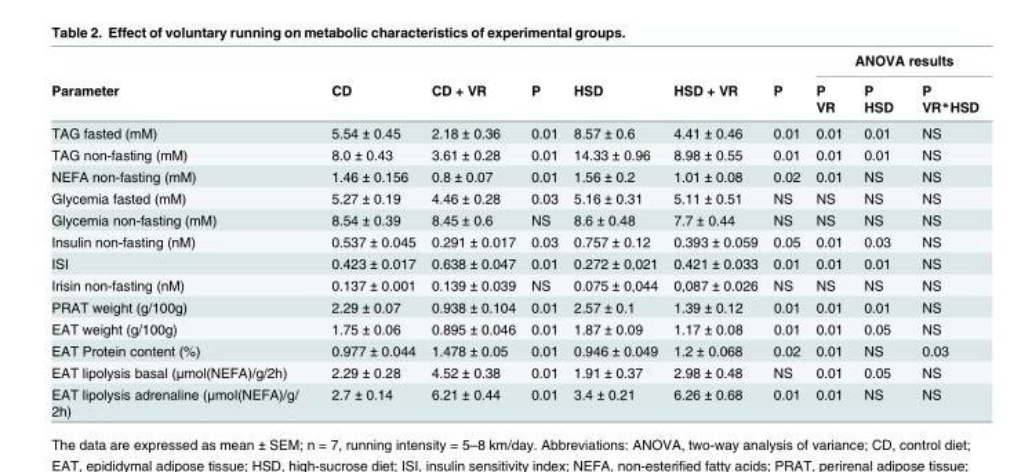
<table><thead><tr><td rowspan="2">Parameter</td><td rowspan="2">CD</td><td rowspan="2">CD + VR</td><td rowspan="2">P</td><td rowspan="2">HSD</td><td rowspan="2">HSD + VR</td><td rowspan="2">P</td><td colspan="3">ANOVA results</td></tr><tr><td>P VR</td><td>P HSD</td><td>P VR*HSD</td></tr></thead><tbody><tr><td>TAG fasted (mM)</td><td>5.54 ± 0.45</td><td>2.18 ± 0.36</td><td>0.01</td><td>8.57 ± 0.6</td><td>4.41 ± 0.46</td><td>0.01</td><td>0.01</td><td>0.01</td><td>NS</td></tr><tr><td>TAG non-fasting (mM)</td><td>8.0 ± 0.43</td><td>3.61 ± 0.28</td><td>0.01</td><td>14.33 ± 0.96</td><td>8.98 ± 0.55</td><td>0.01</td><td>0.01</td><td>0.01</td><td>NS</td></tr><tr><td>NEFA non-fasting (mM)</td><td>1.46 ± 0.156</td><td>0.8 ± 0.07</td><td>0.01</td><td>1.56 ± 0.2</td><td>1.01 ± 0.08</td><td>0.02</td><td>0.01</td><td>NS</td><td>NS</td></tr><tr><td>Glycemia fasted (mM)</td><td>5.27 ± 0.19</td><td>4.46 ± 0.28</td><td>0.03</td><td>5.16 ± 0.31</td><td>5.11 ± 0.51</td><td>NS</td><td>NS</td><td>NS</td><td>NS</td></tr><tr><td>Glycemia non-fasting (mM)</td><td>8.54 ± 0.39</td><td>8.45 ± 0.6</td><td>NS</td><td>8.6 ± 0.48</td><td>7.7 ± 0.44</td><td>NS</td><td>NS</td><td>NS</td><td>NS</td></tr><tr><td>Insulin non-fasting (nM)</td><td>0.537 ± 0.045</td><td>0.291 ± 0.017</td><td>0.03</td><td>0.757 ± 0.12</td><td>0.393 ± 0.059</td><td>0.05</td><td>0.01</td><td>0.03</td><td>NS</td></tr><tr><td>ISI</td><td>0.423 ± 0.017</td><td>0.638 ± 0.047</td><td>0.01</td><td>0.272 ± 0,021</td><td>0.421 ± 0.033</td><td>0.01</td><td>0.01</td><td>0.01</td><td>NS</td></tr><tr><td>Irisin non-fasting (nM)</td><td>0.137 ± 0.001</td><td>0.139 ± 0.039</td><td>NS</td><td>0.075 ± 0,044</td><td>0,087 ± 0.026</td><td>NS</td><td>NS</td><td>NS</td><td>NS</td></tr><tr><td>PRAT weight (g/100g)</td><td>2.29 ± 0.07</td><td>0.938 ± 0.104</td><td>0.01</td><td>2.57 ± 0.1</td><td>1.39 ± 0.12</td><td>0.01</td><td>0.01</td><td>0.01</td><td>NS</td></tr><tr><td>EAT weight (g/100g)</td><td>1.75 ± 0.06</td><td>0.895 ± 0.046</td><td>0.01</td><td>1.87 ± 0.09</td><td>1.17 ± 0.08</td><td>0.01</td><td>0.01</td><td>0.05</td><td>NS</td></tr><tr><td>EAT Protein content (%)</td><td>0.977 ± 0.044</td><td>1.478 ± 0.05</td><td>0.01</td><td>0.946 ± 0.049</td><td>1.2 ± 0.068</td><td>0.02</td><td>0.01</td><td>NS</td><td>0.03</td></tr><tr><td>EAT lipolysis basal (μmol(NEFA)/g/2h)</td><td>2.29 ± 0.28</td><td>4.52 ± 0.38</td><td>0.01</td><td>1.91 ± 0.37</td><td>2.98 ± 0.48</td><td>NS</td><td>0.01</td><td>0.05</td><td>NS</td></tr><tr><td>EAT lipolysis adrenaline (μmol(NEFA)/g/ 2h)</td><td>2.7 ± 0.14</td><td>6.21 ± 0.44</td><td>0.01</td><td>3.4 ± 0.21</td><td>6.26 ± 0.68</td><td>0.01</td><td>0.01</td><td>NS</td><td>NS</td></tr></tbody></table>